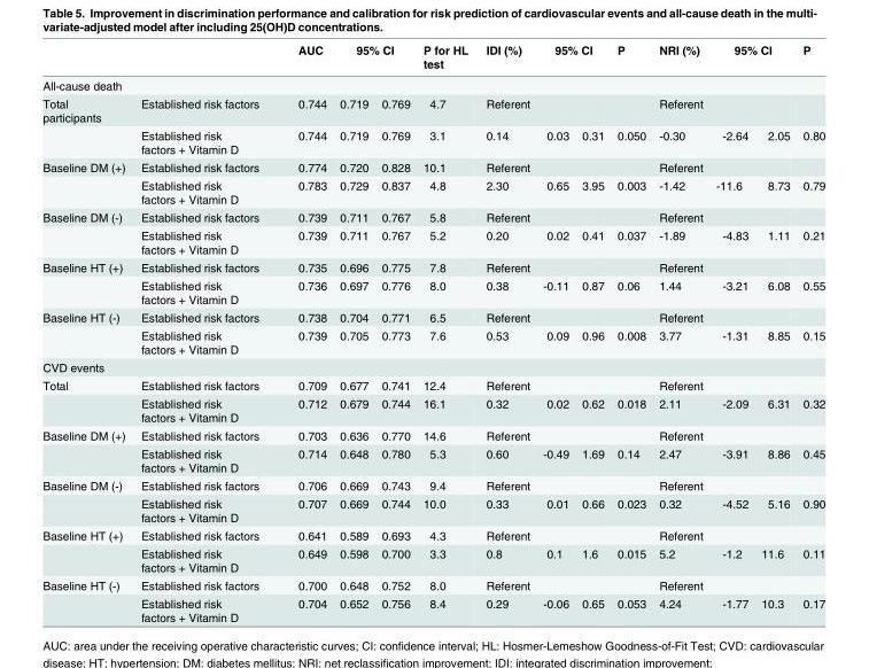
<table><thead><tr><td></td><td></td><td>AUC</td><td colspan="2">95% CI</td><td>P for HL test</td><td>IDI (%)</td><td colspan="2">95% CI</td><td>P</td><td>NRI (%)</td><td colspan="2">95% CI</td><td>P</td></tr><tr><td colspan="14">All-cause death</td></tr><tr><td>Total participants</td><td>Established risk factors</td><td>0.744</td><td>0.719</td><td>0.769</td><td>4.7</td><td>Referent</td><td></td><td></td><td></td><td>Referent</td><td></td><td></td><td></td></tr></thead><tbody><tr><td></td><td>Established risk factors + Vitamin D</td><td>0.744</td><td>0.719</td><td>0.769</td><td>3.1</td><td>0.14</td><td>0.03</td><td>0.31</td><td>0.050</td><td>-0.30</td><td>-2.64</td><td>2.05</td><td>0.80</td></tr><tr><td rowspan="2">Baseline DM (+)</td><td>Established risk factors</td><td>0.774</td><td>0.720</td><td>0.828</td><td>10.1</td><td>Referent</td><td></td><td></td><td></td><td>Referent</td><td></td><td></td><td></td></tr><tr><td>Established risk factors + Vitamin D</td><td>0.783</td><td>0.729</td><td>0.837</td><td>4.8</td><td>2.30</td><td>0.65</td><td>3.95</td><td>0.003</td><td>-1.42</td><td>-11.6</td><td>8.73</td><td>0.79</td></tr><tr><td rowspan="2">Baseline DM (-)</td><td>Established risk factors</td><td>0.739</td><td>0.711</td><td>0.767</td><td>5.8</td><td>Referent</td><td></td><td></td><td></td><td>Referent</td><td></td><td></td><td></td></tr><tr><td>Established risk factors + Vitamin D</td><td>0.739</td><td>0.711</td><td>0.767</td><td>5.2</td><td>0.20</td><td>0.02</td><td>0.41</td><td>0.037</td><td>-1.89</td><td>-4.83</td><td>1.11</td><td>0.21</td></tr><tr><td rowspan="2">Baseline HT (+)</td><td>Established risk factors</td><td>0.735</td><td>0.696</td><td>0.775</td><td>7.8</td><td>Referent</td><td></td><td></td><td></td><td>Referent</td><td></td><td></td><td></td></tr><tr><td>Established risk factors + Vitamin D</td><td>0.736</td><td>0.697</td><td>0.776</td><td>8.0</td><td>0.38</td><td>-0.11</td><td>0.87</td><td>0.06</td><td>1.44</td><td>-3.21</td><td>6.08</td><td>0.55</td></tr><tr><td rowspan="2">Baseline HT (-)</td><td>Established risk factors</td><td>0.738</td><td>0.704</td><td>0.771</td><td>6.5</td><td>Referent</td><td></td><td></td><td></td><td>Referent</td><td></td><td></td><td></td></tr><tr><td>Established risk factors + Vitamin D</td><td>0.739</td><td>0.705</td><td>0.773</td><td>7.6</td><td>0.53</td><td>0.09</td><td>0.96</td><td>0.008</td><td>3.77</td><td>-1.31</td><td>8.85</td><td>0.15</td></tr><tr><td colspan="14">CVD events</td></tr><tr><td rowspan="2">Total</td><td>Established risk factors</td><td>0.709</td><td>0.677</td><td>0.741</td><td>12.4</td><td>Referent</td><td></td><td></td><td></td><td>Referent</td><td></td><td></td><td></td></tr><tr><td>Established risk factors + Vitamin D</td><td>0.712</td><td>0.679</td><td>0.744</td><td>16.1</td><td>0.32</td><td>0.02</td><td>0.62</td><td>0.018</td><td>2.11</td><td>-2.09</td><td>6.31</td><td>0.32</td></tr><tr><td rowspan="2">Baseline DM (+)</td><td>Established risk factors</td><td>0.703</td><td>0.636</td><td>0.770</td><td>14.6</td><td>Referent</td><td></td><td></td><td></td><td>Referent</td><td></td><td></td><td></td></tr><tr><td>Established risk factors + Vitamin D</td><td>0.714</td><td>0.648</td><td>0.780</td><td>5.3</td><td>0.60</td><td>-0.49</td><td>1.69</td><td>0.14</td><td>2.47</td><td>-3.91</td><td>8.86</td><td>0.45</td></tr><tr><td rowspan="2">Baseline DM (-)</td><td>Established risk factors</td><td>0.706</td><td>0.669</td><td>0.743</td><td>9.4</td><td>Referent</td><td></td><td></td><td></td><td>Referent</td><td></td><td></td><td></td></tr><tr><td>Established risk factors + Vitamin D</td><td>0.707</td><td>0.669</td><td>0.744</td><td>10.0</td><td>0.33</td><td>0.01</td><td>0.66</td><td>0.023</td><td>0.32</td><td>-4.52</td><td>5.16</td><td>0.90</td></tr><tr><td rowspan="2">Baseline HT (+)</td><td>Established risk factors</td><td>0.641</td><td>0.589</td><td>0.693</td><td>4.3</td><td>Referent</td><td></td><td></td><td></td><td>Referent</td><td></td><td></td><td></td></tr><tr><td>Established risk factors + Vitamin D</td><td>0.649</td><td>0.598</td><td>0.700</td><td>3.3</td><td>0.8</td><td>0.1</td><td>1.6</td><td>0.015</td><td>5.2</td><td>-1.2</td><td>11.6</td><td>0.11</td></tr><tr><td rowspan="2">Baseline HT (-)</td><td>Established risk factors</td><td>0.700</td><td>0.648</td><td>0.752</td><td>8.0</td><td>Referent</td><td></td><td></td><td></td><td>Referent</td><td></td><td></td><td></td></tr><tr><td>Established risk factors + Vitamin D</td><td>0.704</td><td>0.652</td><td>0.756</td><td>8.4</td><td>0.29</td><td>-0.06</td><td>0.65</td><td>0.053</td><td>4.24</td><td>-1.77</td><td>10.3</td><td>0.17</td></tr></tbody></table>